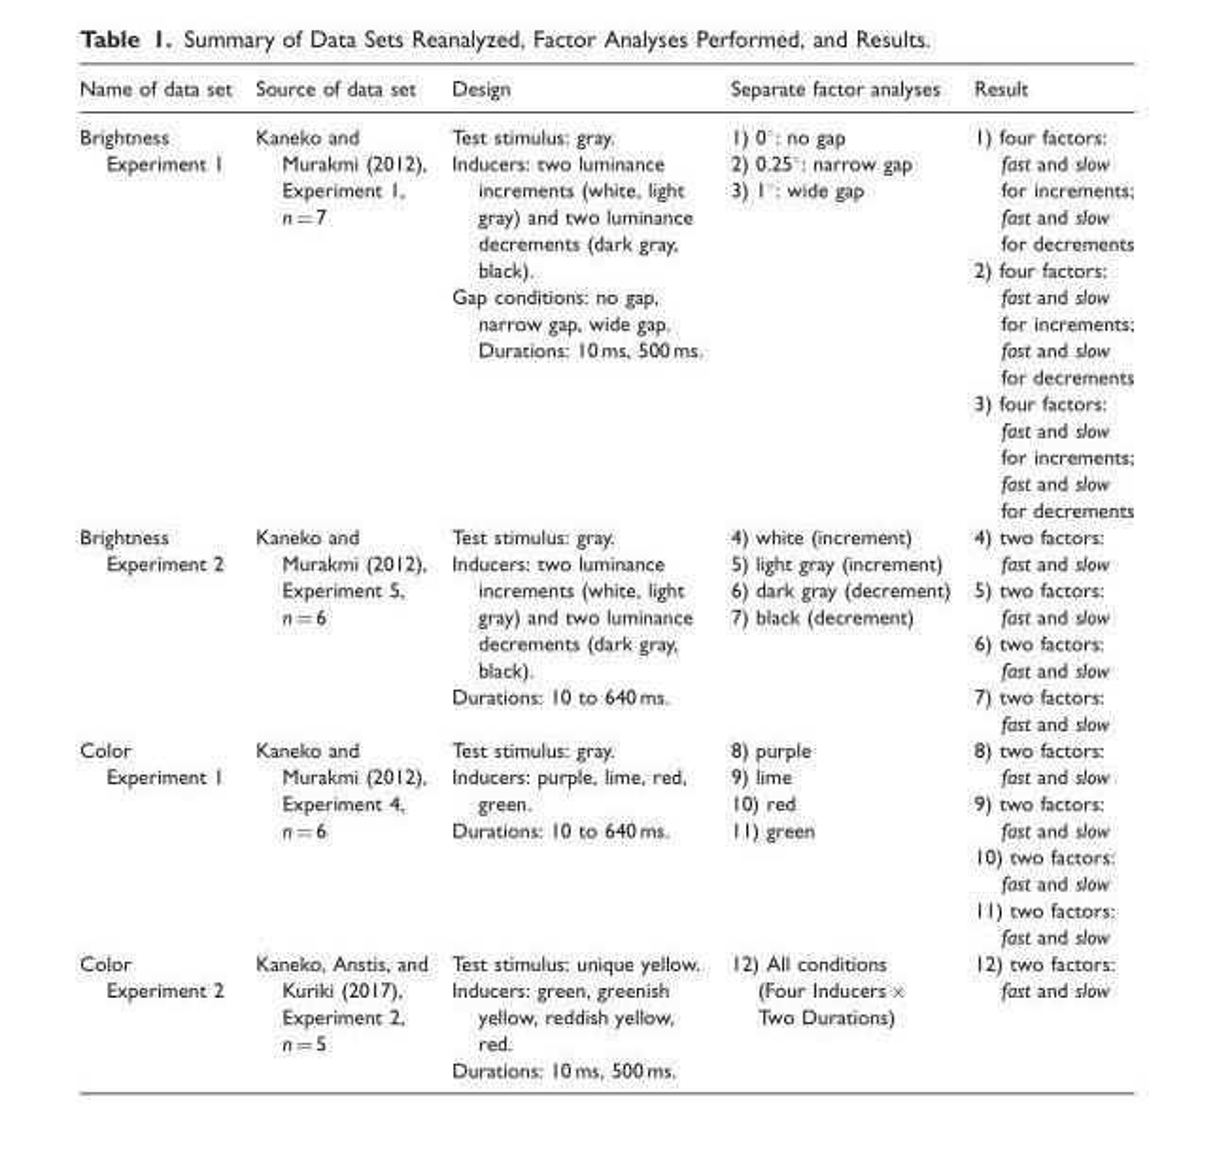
<table><thead><tr><td>Name of data set</td><td>Source of data set</td><td>Design</td><td>Separate factor analyses</td><td>Result</td></tr></thead><tbody><tr><td>Brightness Experiment 1</td><td>Kaneko and Murakmi (2012), Experiment 1, n = 7</td><td>Test stimulus: gray. Inducers: two luminance increments (white, light gray) and two luminance decrements (dark gray, black). Gap conditions: no gap, narrow gap, wide gap. Durations: 10 ms, 500 ms.</td><td>1) 0°: no gap 2) 0.25°: narrow gap 3) 1°: wide gap</td><td>1) four factors: fast and slow for increments; fast and slow for decrements 2) four factors: fast and slow for increments; fast and slow for decrements 3) four factors: fast and slow for increments; fast and slow for decrements</td></tr><tr><td>Brightness Experiment 2</td><td>Kaneko and Murakmi (2012), Experiment 5, n = 6</td><td>Test stimulus: gray. Inducers: two luminance increments (white, light gray) and two luminance decrements (dark gray, black). Durations: 10 to 640 ms.</td><td>4) white (increment) 5) light gray (increment) 6) dark gray (decrement) 7) black (decrement)</td><td>4) two factors: fast and slow 5) two factors: fast and slow 6) two factors: fast and slow 7) two factors: fast and slow</td></tr><tr><td>Color Experiment 1</td><td>Kaneko and Murakmi (2012), Experiment 4, n = 6</td><td>Test stimulus: gray. Inducers: purple, lime, red, green. Durations: 10 to 640 ms.</td><td>8) purple 9) lime 10) red 11) green</td><td>8) two factors: fast and slow 9) two factors: fast and slow 10) two factors: fast and slow 11) two factors: fast and slow</td></tr><tr><td>Color Experiment 2</td><td>Kaneko, Anstis, and Kuriki (2017), Experiment 2, n = 5</td><td>Test stimulus: unique yellow. Inducers: green, greenish yellow, reddish yellow, red. Durations: 10 ms, 500 ms.</td><td>12) All conditions (Four Inducers × Two Durations)</td><td>12) two factors: fast and slow</td></tr></tbody></table>